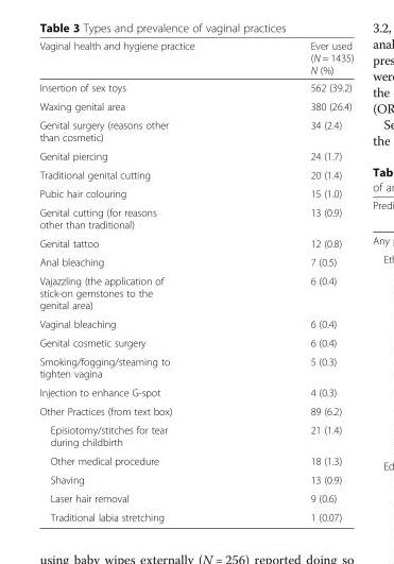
<table><thead><tr><td>Vaginal health and hygiene practice</td><td>Ever used (N = 1435) N (%)</td></tr></thead><tbody><tr><td>Insertion of sex toys</td><td>562 (39.2)</td></tr><tr><td>Waxing genital area</td><td>380 (26.4)</td></tr><tr><td>Genital surgery (reasons other than cosmetic)</td><td>34 (2.4)</td></tr><tr><td>Genital piercing</td><td>24 (1.7)</td></tr><tr><td>Traditional genital cutting</td><td>20 (1.4)</td></tr><tr><td>Pubic hair colouring</td><td>15 (1.0)</td></tr><tr><td>Genital cutting (for reasons other than traditional)</td><td>13 (0.9)</td></tr><tr><td>Genital tattoo</td><td>12 (0.8)</td></tr><tr><td>Anal bleaching</td><td>7 (0.5)</td></tr><tr><td>Vajazzling (the application of stick-on gemstones to the genital area)</td><td>6 (0.4)</td></tr><tr><td>Vaginal bleaching</td><td>6 (0.4)</td></tr><tr><td>Genital cosmetic surgery</td><td>6 (0.4)</td></tr><tr><td>Smoking/fogging/steaming to tighten vagina</td><td>5 (0.3)</td></tr><tr><td>Injection to enhance G-spot</td><td>4 (0.3)</td></tr><tr><td>Other Practices (from text box)</td><td>89 (6.2)</td></tr><tr><td>Episiotomy/stitches for tear during childbirth</td><td>21 (1.4)</td></tr><tr><td>Other medical procedure</td><td>18 (1.3)</td></tr><tr><td>Shaving</td><td>13 (0.9)</td></tr><tr><td>Laser hair removal</td><td>9 (0.6)</td></tr><tr><td>Traditional labia stretching</td><td>1 (0.07)</td></tr></tbody></table>